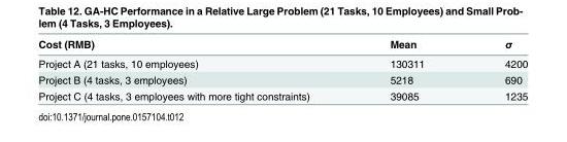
<table><thead><tr><td>Cost (RMB)</td><td>Mean</td><td>σ</td></tr></thead><tbody><tr><td>Project A (21 tasks, 10 employees)</td><td>130311</td><td>4200</td></tr><tr><td>Project B (4 tasks, 3 employees)</td><td>5218</td><td>690</td></tr><tr><td>Project C (4 tasks, 3 employees with more tight constraints)</td><td>39085</td><td>1235</td></tr></tbody></table>